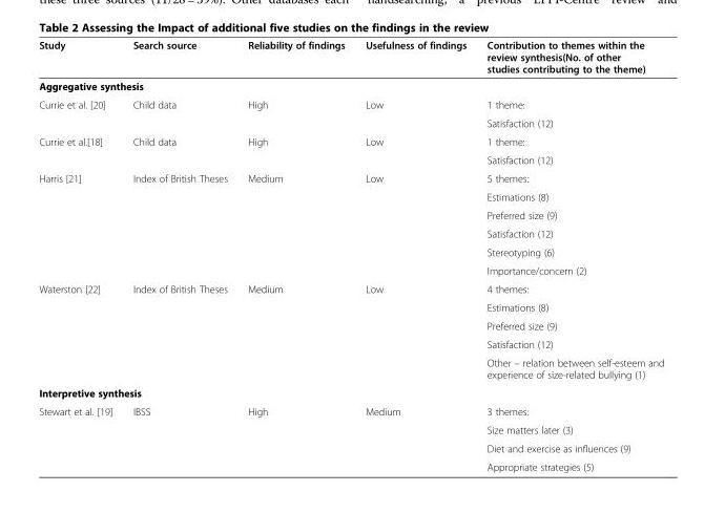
<table><thead><tr><td>Study</td><td>Search source</td><td>Reliability of findings</td><td>Usefulness of findings</td><td>Contribution to themes within the review synthesis(No. of other studies contributing to the theme)</td></tr></thead><tbody><tr><td colspan="5">Aggregative synthesis</td></tr><tr><td rowspan="2">Currie et al. [20]</td><td>Child data</td><td>High</td><td>Low</td><td>1 theme:</td></tr><tr><td></td><td></td><td></td><td>Satisfaction (12)</td></tr><tr><td rowspan="2">Currie et al.[18]</td><td>Child data</td><td>High</td><td>Low</td><td>1 theme:</td></tr><tr><td></td><td></td><td></td><td>Satisfaction (12)</td></tr><tr><td rowspan="6">Harris [21]</td><td>Index of British Theses</td><td>Medium</td><td>Low</td><td>5 themes:</td></tr><tr><td></td><td></td><td></td><td>Estimations (8)</td></tr><tr><td></td><td></td><td></td><td>Preferred size (9)</td></tr><tr><td></td><td></td><td></td><td>Satisfaction (12)</td></tr><tr><td></td><td></td><td></td><td>Stereotyping (6)</td></tr><tr><td></td><td></td><td></td><td>Importance/concern (2)</td></tr><tr><td rowspan="5">Waterston [22]</td><td>Index of British Theses</td><td>Medium</td><td>Low</td><td>4 themes:</td></tr><tr><td></td><td></td><td></td><td>Estimations (8)</td></tr><tr><td></td><td></td><td></td><td>Preferred size (9)</td></tr><tr><td></td><td></td><td></td><td>Satisfaction (12)</td></tr><tr><td></td><td></td><td></td><td>Other – relation between self-esteem and experience of size-related bullying (1)</td></tr><tr><td colspan="5">Interpretive synthesis</td></tr><tr><td rowspan="4">Stewart et al. [19]</td><td>IBSS</td><td>High</td><td>Medium</td><td>3 themes:</td></tr><tr><td></td><td></td><td></td><td>Size matters later (3)</td></tr><tr><td></td><td></td><td></td><td>Diet and exercise as influences (9)</td></tr><tr><td></td><td></td><td></td><td>Appropriate strategies (5)</td></tr></tbody></table>